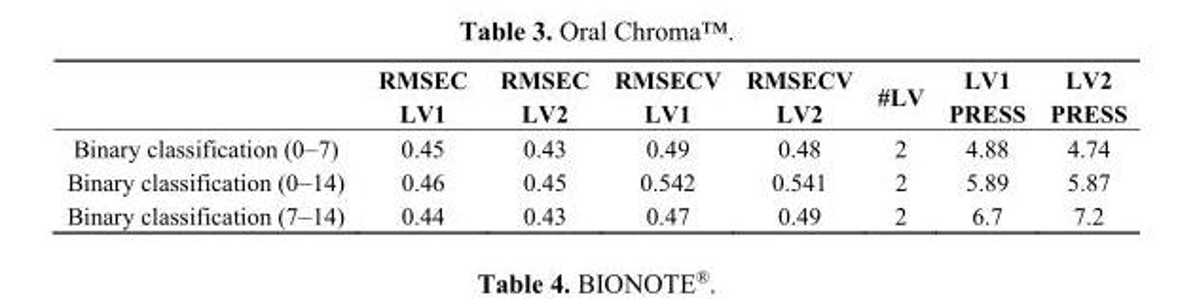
<table><thead><tr><td></td><td>RMSEC LV1</td><td>RMSEC LV2</td><td>RMSECV LV1</td><td>RMSECV LV2</td><td>#LV</td><td>LV1 PRESS</td><td>LV2 PRESS</td></tr></thead><tbody><tr><td>Binary classification (0–7)</td><td>0.45</td><td>0.43</td><td>0.49</td><td>0.48</td><td>2</td><td>4.88</td><td>4.74</td></tr><tr><td>Binary classification (0–14)</td><td>0.46</td><td>0.45</td><td>0.542</td><td>0.541</td><td>2</td><td>5.89</td><td>5.87</td></tr><tr><td>Binary classification (7–14)</td><td>0.44</td><td>0.43</td><td>0.47</td><td>0.49</td><td>2</td><td>6.7</td><td>7.2</td></tr></tbody></table>